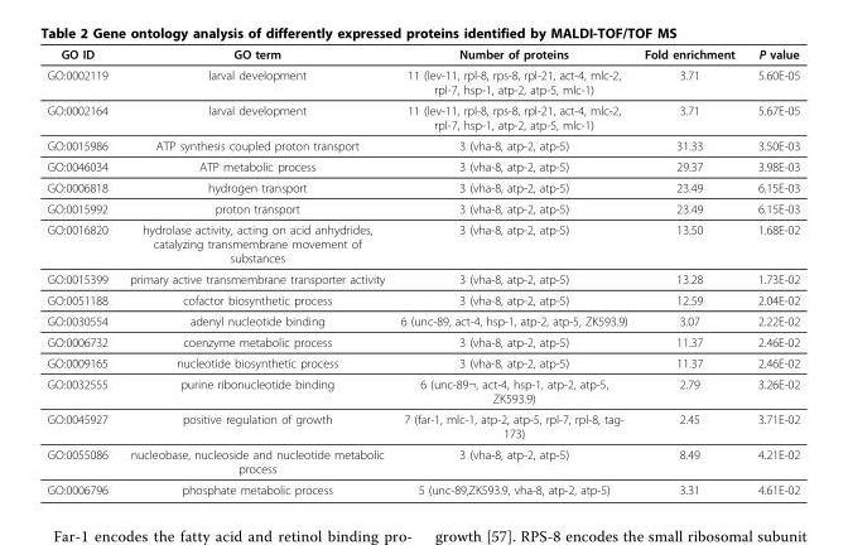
<table><thead><tr><td>GO ID</td><td>GO term</td><td>Number of proteins</td><td>Fold enrichment</td><td>P value</td></tr></thead><tbody><tr><td>GO:0002119</td><td>larval development</td><td>11 (lev-11, rpl-8, rps-8, rpl-21, act-4, mlc-2, rpl-7, hsp-1, atp-2, atp-5, mlc-1)</td><td>3.71</td><td>5.60E-05</td></tr><tr><td>GO:0002164</td><td>larval development</td><td>11 (lev-11, rpl-8, rps-8, rpl-21, act-4, mlc-2, rpl-7, hsp-1, atp-2, atp-5, mlc-1)</td><td>3.71</td><td>5.67E-05</td></tr><tr><td>GO:0015986</td><td>ATP synthesis coupled proton transport</td><td>3 (vha-8, atp-2, atp-5)</td><td>31.33</td><td>3.50E-03</td></tr><tr><td>GO:0046034</td><td>ATP metabolic process</td><td>3 (vha-8, atp-2, atp-5)</td><td>29.37</td><td>3.98E-03</td></tr><tr><td>GO:0006818</td><td>hydrogen transport</td><td>3 (vha-8, atp-2, atp-5)</td><td>23.49</td><td>6.15E-03</td></tr><tr><td>GO:0015992</td><td>proton transport</td><td>3 (vha-8, atp-2, atp-5)</td><td>23.49</td><td>6.15E-03</td></tr><tr><td>GO:0016820</td><td>hydrolase activity, acting on acid anhydrides, catalyzing transmembrane movement of substances</td><td>3 (vha-8, atp-2, atp-5)</td><td>13.50</td><td>1.68E-02</td></tr><tr><td>GO:0015399</td><td>primary active transmembrane transporter activity</td><td>3 (vha-8, atp-2, atp-5)</td><td>13.28</td><td>1.73E-02</td></tr><tr><td>GO:0051188</td><td>cofactor biosynthetic process</td><td>3 (vha-8, atp-2, atp-5)</td><td>12.59</td><td>2.04E-02</td></tr><tr><td>GO:0030554</td><td>adenyl nucleotide binding</td><td>6 (unc-89, act-4, hsp-1, atp-2, atp-5, ZK593.9)</td><td>3.07</td><td>2.22E-02</td></tr><tr><td>GO:0006732</td><td>coenzyme metabolic process</td><td>3 (vha-8, atp-2, atp-5)</td><td>11.37</td><td>2.46E-02</td></tr><tr><td>GO:0009165</td><td>nucleotide biosynthetic process</td><td>3 (vha-8, atp-2, atp-5)</td><td>11.37</td><td>2.46E-02</td></tr><tr><td>GO:0032555</td><td>purine ribonucleotide binding</td><td>6 (unc-89¬, act-4, hsp-1, atp-2, atp-5, ZK593.9)</td><td>2.79</td><td>3.26E-02</td></tr><tr><td>GO:0045927</td><td>positive regulation of growth</td><td>7 (far-1, mlc-1, atp-2, atp-5, rpl-7, rpl-8, tag- 173)</td><td>2.45</td><td>3.71E-02</td></tr><tr><td>GO:0055086</td><td>nucleobase, nucleoside and nucleotide metabolic process</td><td>3 (vha-8, atp-2, atp-5)</td><td>8.49</td><td>4.21E-02</td></tr><tr><td>GO:0006796</td><td>phosphate metabolic process</td><td>5 (unc-89,ZK593.9, vha-8, atp-2, atp-5)</td><td>3.31</td><td>4.61E-02</td></tr></tbody></table>